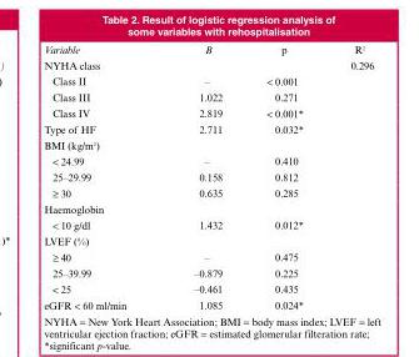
<table><thead><tr><td>Variable</td><td>B</td><td>p</td><td>R2</td></tr></thead><tbody><tr><td>NYHA class</td><td></td><td></td><td>0.296</td></tr><tr><td>Class II</td><td>–</td><td>&lt; 0.001</td><td></td></tr><tr><td>Class III</td><td>1.022</td><td>0.271</td><td></td></tr><tr><td>Class IV</td><td>2.819</td><td>&lt; 0.001*</td><td></td></tr><tr><td>Type of HF</td><td>2.711</td><td>0.032*</td><td></td></tr><tr><td colspan="4">BMI (kg/m2)</td></tr><tr><td>&lt; 24.99</td><td>–</td><td>0.410</td><td></td></tr><tr><td>25–29.99</td><td>0.158</td><td>0.812</td><td></td></tr><tr><td>≥ 30</td><td>0.635</td><td>0.285</td><td></td></tr><tr><td colspan="4">Haemoglobin</td></tr><tr><td>&lt; 10 g/dl</td><td>1.432</td><td>0.012*</td><td></td></tr><tr><td colspan="4">LVEF (%)</td></tr><tr><td>≥ 40</td><td>–</td><td>0.475</td><td></td></tr><tr><td>25–39.99</td><td>–0.879</td><td>0.225</td><td></td></tr><tr><td>&lt; 25</td><td>–0.461</td><td>0.435</td><td></td></tr><tr><td>eGFR &lt; 60 ml/min</td><td>1.085</td><td>0.024*</td><td></td></tr></tbody></table>